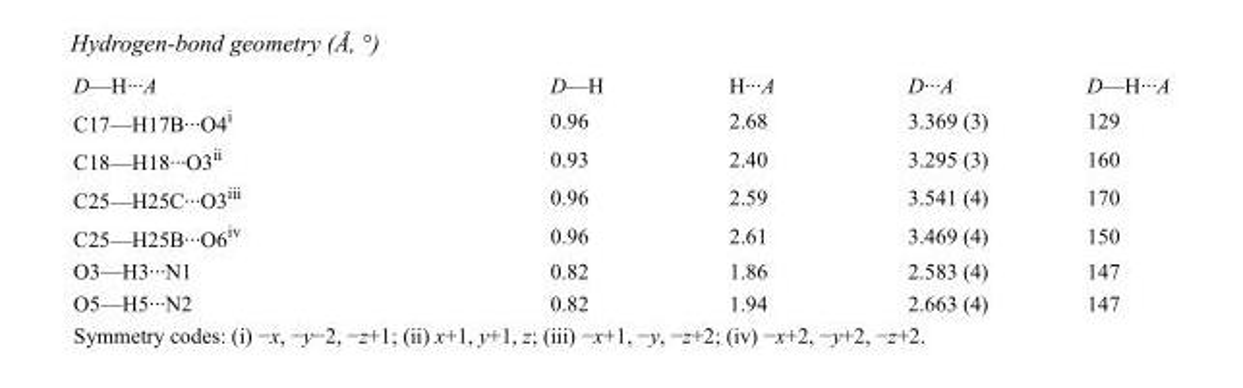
<table><tbody><tr><td>D—H···A</td><td>D—H</td><td>H···A</td><td>D···A</td><td>D—H···A</td></tr><tr><td>C17—H17B···O4<sup>i</sup></td><td>0.96</td><td>2.68</td><td>3.369 (3)</td><td>129</td></tr><tr><td>C18—H18···O3<sup>ii</sup></td><td>0.93</td><td>2.40</td><td>3.295 (3)</td><td>160</td></tr><tr><td>C25—H25C···O3<sup>iii</sup></td><td>0.96</td><td>2.59</td><td>3.541 (4)</td><td>170</td></tr><tr><td>C25—H25B···O6<sup>iv</sup></td><td>0.96</td><td>2.61</td><td>3.469 (4)</td><td>150</td></tr><tr><td>O3—H3···N1</td><td>0.82</td><td>1.86</td><td>2.583 (4)</td><td>147</td></tr><tr><td>O5—H5···N2</td><td>0.82</td><td>1.94</td><td>2.663 (4)</td><td>147</td></tr></tbody></table>